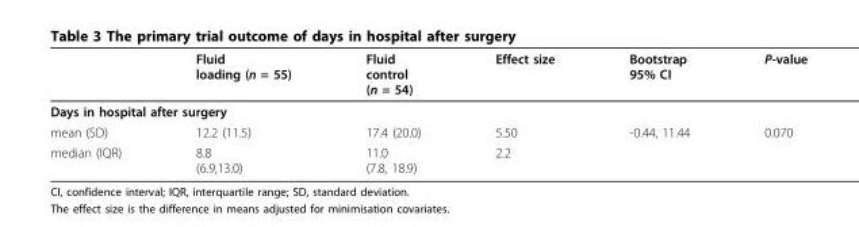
<table><thead><tr><td></td><td>Fluid loading (n = 55)</td><td>Fluid control (n = 54)</td><td>Effect size</td><td>Bootstrap 95% CI</td><td>P-value</td></tr></thead><tbody><tr><td colspan="6">Days in hospital after surgery</td></tr><tr><td>mean (SD)</td><td>12.2 (11.5)</td><td>17.4 (20.0)</td><td>5.50</td><td>-0.44, 11.44</td><td>0.070</td></tr><tr><td>median (IQR)</td><td>8.8 (6.9,13.0)</td><td>11.0 (7.8, 18.9)</td><td>2.2</td><td></td><td></td></tr></tbody></table>